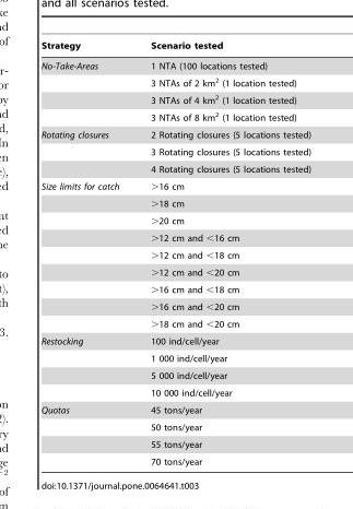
<table><thead><tr><td>Strategy</td><td>Scenario tested</td></tr></thead><tbody><tr><td rowspan="4">No-Take-Areas</td><td>1 NTA (100 locations tested)</td></tr><tr><td>3 NTAs of 2 km<sup>2</sup> (1 location tested)</td></tr><tr><td>3 NTAs of 4 km<sup>2</sup> (1 location tested)</td></tr><tr><td>3 NTAs of 8 km<sup>2</sup> (1 location tested)</td></tr><tr><td rowspan="3">Rotating closures</td><td>2 Rotating closures (5 locations tested)</td></tr><tr><td>3 Rotating closures (5 locations tested)</td></tr><tr><td>4 Rotating closures (5 locations tested)</td></tr><tr><td rowspan="9">Size limits for catch</td><td>&gt;16 cm</td></tr><tr><td>&gt;18 cm</td></tr><tr><td>&gt;20 cm</td></tr><tr><td>&gt;12 cm and &lt;16 cm</td></tr><tr><td>&gt;12 cm and &lt;18 cm</td></tr><tr><td>&gt;12 cm and &lt;20 cm</td></tr><tr><td>&gt;16 cm and &lt;18 cm</td></tr><tr><td>&gt;16 cm and &lt;20 cm</td></tr><tr><td>&gt;18 cm and &lt;20 cm</td></tr><tr><td rowspan="4">Restocking</td><td>100 ind/cell/year</td></tr><tr><td>1 000 ind/cell/year</td></tr><tr><td>5 000 ind/cell/year</td></tr><tr><td>10 000 ind/cell/year</td></tr><tr><td rowspan="4">Quotas</td><td>45 tons/year</td></tr><tr><td>50 tons/year</td></tr><tr><td>55 tons/year</td></tr><tr><td>70 tons/year</td></tr></tbody></table>